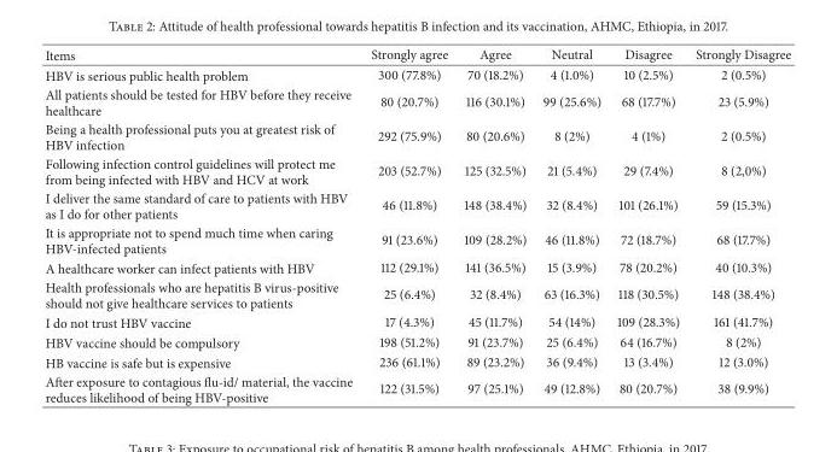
<table><thead><tr><td>Items</td><td>Strongly agree</td><td>Agree</td><td>Neutral</td><td>Disagree</td><td>Strongly Disagree</td></tr></thead><tbody><tr><td>HBV is serious public health problem</td><td>300 (77.8%)</td><td>70 (18.2%)</td><td>4 (1.0%)</td><td>10 (2.5%)</td><td>2 (0.5%)</td></tr><tr><td>All patients should be tested for HBV before they receive healthcare</td><td>80 (20.7%)</td><td>116 (30.1%)</td><td>99 (25.6%)</td><td>68 (17.7%)</td><td>23 (5.9%)</td></tr><tr><td>Being a health professional puts you at greatest risk of HBV infection</td><td>292 (75.9%)</td><td>80 (20.6%)</td><td>8 (2%)</td><td>4 (1%)</td><td>2 (0.5%)</td></tr><tr><td>Following infection control guidelines will protect me from being infected with HBV and HCV at work</td><td>203 (52.7%)</td><td>125 (32.5%)</td><td>21 (5.4%)</td><td>29 (7.4%)</td><td>8 (2,0%)</td></tr><tr><td>I deliver the same standard of care to patients with HBV as I do for other patients</td><td>46 (11.8%)</td><td>148 (38.4%)</td><td>32 (8.4%)</td><td>101 (26.1%)</td><td>59 (15.3%)</td></tr><tr><td>It is appropriate not to spend much time when caring HBV-infected patients</td><td>91 (23.6%)</td><td>109 (28.2%)</td><td>46 (11.8%)</td><td>72 (18.7%)</td><td>68 (17.7%)</td></tr><tr><td>A healthcare worker can infect patients with HBV</td><td>112 (29.1%)</td><td>141 (36.5%)</td><td>15 (3.9%)</td><td>78 (20.2%)</td><td>40 (10.3%)</td></tr><tr><td>Health professionals who are hepatitis B virus-positive should not give healthcare services to patients</td><td>25 (6.4%)</td><td>32 (8.4%)</td><td>63 (16.3%)</td><td>118 (30.5%)</td><td>148 (38.4%)</td></tr><tr><td>I do not trust HBV vaccine</td><td>17 (4.3%)</td><td>45 (11.7%)</td><td>54 (14%)</td><td>109 (28.3%)</td><td>161 (41.7%)</td></tr><tr><td>HBV vaccine should be compulsory</td><td>198 (51.2%)</td><td>91 (23.7%)</td><td>25 (6.4%)</td><td>64 (16.7%)</td><td>8 (2%)</td></tr><tr><td>HB vaccine is safe but is expensive</td><td>236 (61.1%)</td><td>89 (23.2%)</td><td>36 (9.4%)</td><td>13 (3.4%)</td><td>12 (3.0%)</td></tr><tr><td>After exposure to contagious flu-id/ material, the vaccine reduces likelihood of being HBV-positive</td><td>122 (31.5%)</td><td>97 (25.1%)</td><td>49 (12.8%)</td><td>80 (20.7%)</td><td>38 (9.9%)</td></tr></tbody></table>